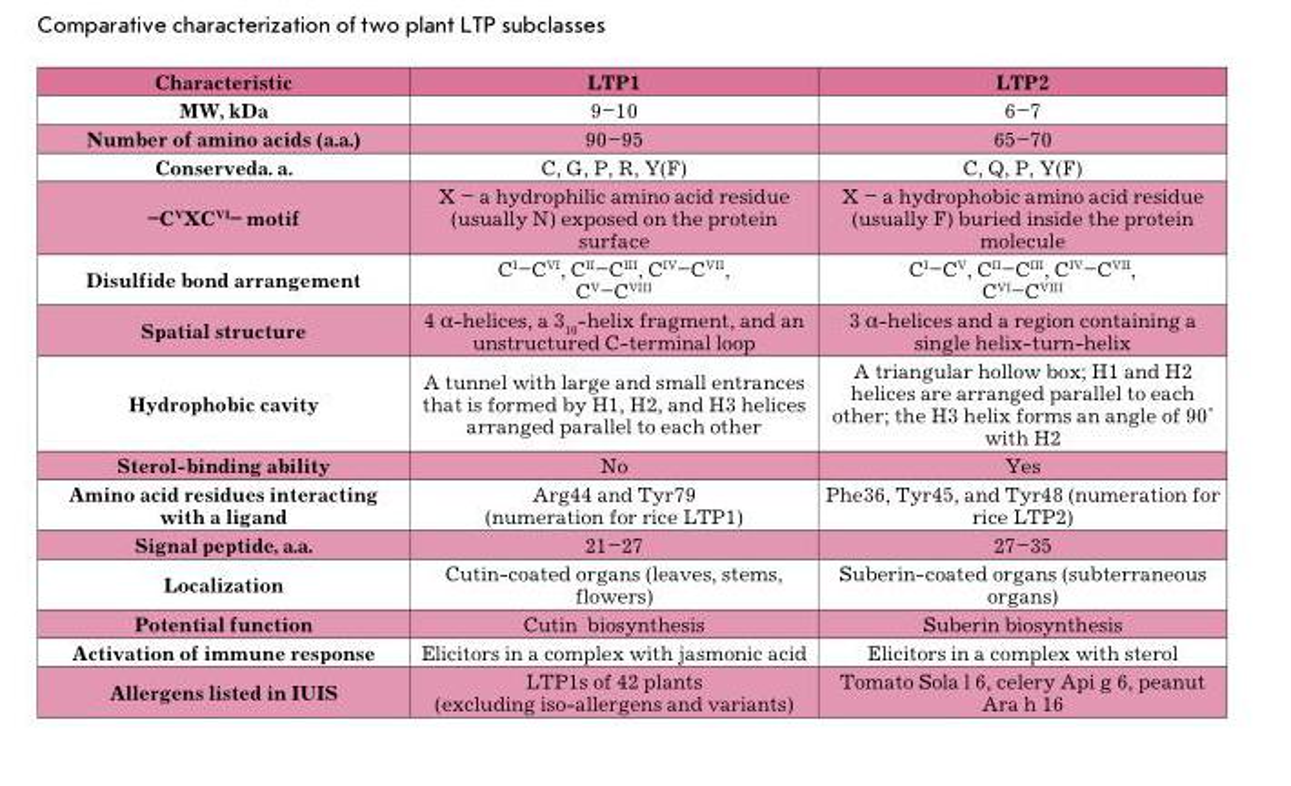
<table><thead><tr><td>Characteristic</td><td>LTP1</td><td>LTP2</td></tr></thead><tbody><tr><td>MW, kDa</td><td>9–10</td><td>6–7</td></tr><tr><td>Number of amino acids (a.a.)</td><td>90–95</td><td>65–70</td></tr><tr><td>Conserveda. a.</td><td>C, G, P, R, Y(F)</td><td>C, Q, P, Y(F)</td></tr><tr><td>–C<sup>V</sup>XC<sup>VI</sup>– motif</td><td>X – a hydrophilic amino acid residue (usually N) exposed on the protein surface</td><td>X – a hydrophobic amino acid residue (usually F) buried inside the protein molecule</td></tr><tr><td>Disulfide bond arrangement</td><td>C<sup>I</sup>–C<sup>VI</sup>, C<sup>II</sup>–C<sup>III</sup>, C<sup>IV</sup>–C<sup>VII</sup>, C<sup>V</sup>–C<sup>VIII</sup></td><td>C<sup>I</sup>–C<sup>V</sup>, CII–C<sup>III</sup>, C<sup>IV</sup>–C<sup>VII</sup>, C<sup>VI</sup>–C<sup>VIII</sup></td></tr><tr><td>Spatial structure</td><td>4 α-helices, a 310-helix fragment, and an unstructured C-terminal loop</td><td>3 α-helices and a region containing a single helix-turn-helix</td></tr><tr><td>Hydrophobic cavity</td><td>A tunnel with large and small entrances that is formed by H1, H2, and H3 helices arranged parallel to each other</td><td>A triangular hollow box; H1 and H2 helices are arranged parallel to each other; the H3 helix forms an angle of 90° with H2</td></tr><tr><td>Sterol-binding ability</td><td>No</td><td>Yes</td></tr><tr><td>Amino acid residues interacting with a ligand</td><td>Arg44 and Tyr79 (numeration for rice LTP1)</td><td>Phe36, Tyr45, and Tyr48 (numeration for rice LTP2)</td></tr><tr><td>Signal peptide, a.a.</td><td>21–27</td><td>27–35</td></tr><tr><td>Localization</td><td>Cutin-coated organs (leaves, stems, flowers)</td><td>Suberin-coated organs (subterraneous organs)</td></tr><tr><td>Potential function</td><td>Cutin biosynthesis</td><td>Suberin biosynthesis</td></tr><tr><td>Activation of immune response</td><td>Elicitors in a complex with jasmonic acid</td><td>Elicitors in a complex with sterol</td></tr><tr><td>Allergens listed in IUIS</td><td>LTP1s of 42 plants (excluding iso-allergens and variants)</td><td>Tomato Sola l 6, celery Api g 6, peanut Ara h 16</td></tr></tbody></table>